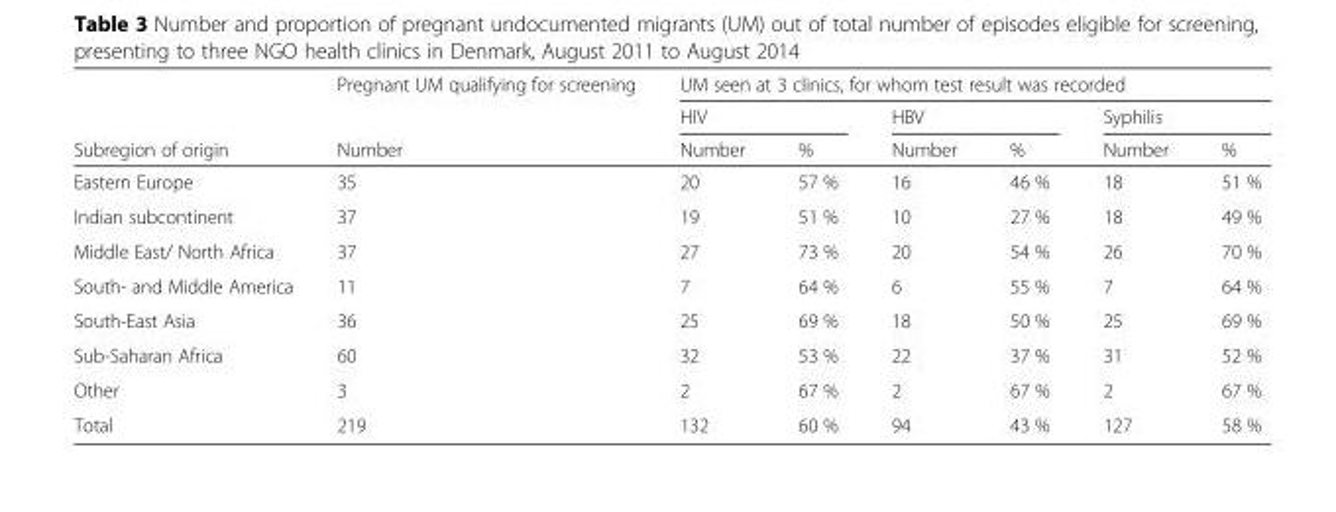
<table><thead><tr><td rowspan="3">Subregion of origin</td><td rowspan="3">Pregnant UM qualifying for screening Number</td><td colspan="6">UM seen at 3 clinics, for whom test result was recorded</td></tr><tr><td colspan="2">HIV</td><td colspan="2">HBV</td><td colspan="2">Syphilis</td></tr><tr><td>Number</td><td>%</td><td>Number</td><td>%</td><td>Number</td><td>%</td></tr></thead><tbody><tr><td>Eastern Europe</td><td>35</td><td>20</td><td>57 %</td><td>16</td><td>46 %</td><td>18</td><td>51 %</td></tr><tr><td>Indian subcontinent</td><td>37</td><td>19</td><td>51 %</td><td>10</td><td>27 %</td><td>18</td><td>49 %</td></tr><tr><td>Middle East/ North Africa</td><td>37</td><td>27</td><td>73 %</td><td>20</td><td>54 %</td><td>26</td><td>70 %</td></tr><tr><td>South- and Middle America</td><td>11</td><td>7</td><td>64 %</td><td>6</td><td>55 %</td><td>7</td><td>64 %</td></tr><tr><td>South-East Asia</td><td>36</td><td>25</td><td>69 %</td><td>18</td><td>50 %</td><td>25</td><td>69 %</td></tr><tr><td>Sub-Saharan Africa</td><td>60</td><td>32</td><td>53 %</td><td>22</td><td>37 %</td><td>31</td><td>52 %</td></tr><tr><td>Other</td><td>3</td><td>2</td><td>67 %</td><td>2</td><td>67 %</td><td>2</td><td>67 %</td></tr><tr><td>Total</td><td>219</td><td>132</td><td>60 %</td><td>94</td><td>43 %</td><td>127</td><td>58 %</td></tr></tbody></table>